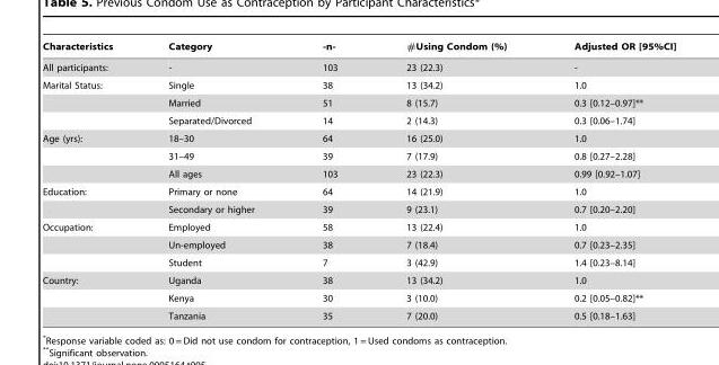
<table><thead><tr><td>Characteristics</td><td>Category</td><td>-n-</td><td>#Using Condom (%)</td><td>Adjusted OR [95%CI]</td></tr></thead><tbody><tr><td>All participants:</td><td>-</td><td>103</td><td>23 (22.3)</td><td>-</td></tr><tr><td rowspan="3">Marital Status:</td><td>Single</td><td>38</td><td>13 (34.2)</td><td>1.0</td></tr><tr><td>Married</td><td>51</td><td>8 (15.7)</td><td>0.3 [0.12–0.97]**</td></tr><tr><td>Separated/Divorced</td><td>14</td><td>2 (14.3)</td><td>0.3 [0.06–1.74]</td></tr><tr><td rowspan="3">Age (yrs):</td><td>18–30</td><td>64</td><td>16 (25.0)</td><td>1.0</td></tr><tr><td>31–49</td><td>39</td><td>7 (17.9)</td><td>0.8 [0.27–2.28]</td></tr><tr><td>All ages</td><td>103</td><td>23 (22.3)</td><td>0.99 [0.92–1.07]</td></tr><tr><td rowspan="2">Education:</td><td>Primary or none</td><td>64</td><td>14 (21.9)</td><td>1.0</td></tr><tr><td>Secondary or higher</td><td>39</td><td>9 (23.1)</td><td>0.7 [0.20–2.20]</td></tr><tr><td rowspan="3">Occupation:</td><td>Employed</td><td>58</td><td>13 (22.4)</td><td>1.0</td></tr><tr><td>Un-employed</td><td>38</td><td>7 (18.4)</td><td>0.7 [0.23–2.35]</td></tr><tr><td>Student</td><td>7</td><td>3 (42.9)</td><td>1.4 [0.23–8.14]</td></tr><tr><td rowspan="3">Country:</td><td>Uganda</td><td>38</td><td>13 (34.2)</td><td>1.0</td></tr><tr><td>Kenya</td><td>30</td><td>3 (10.0)</td><td>0.2 [0.05–0.82]**</td></tr><tr><td>Tanzania</td><td>35</td><td>7 (20.0)</td><td>0.5 [0.18–1.63]</td></tr></tbody></table>